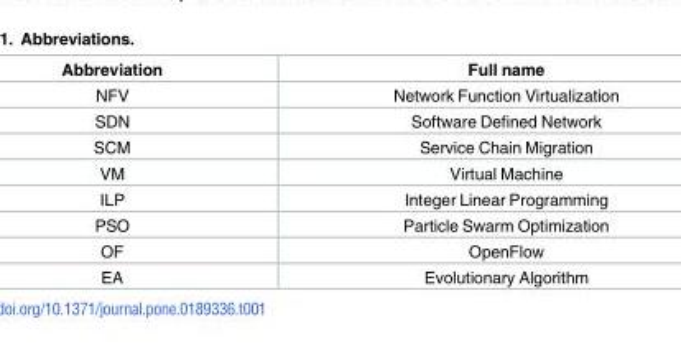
<table><thead><tr><td>Abbreviation</td><td>Full name</td></tr></thead><tbody><tr><td>NFV</td><td>Network Function Virtualization</td></tr><tr><td>SDN</td><td>Software Defined Network</td></tr><tr><td>SCM</td><td>Service Chain Migration</td></tr><tr><td>VM</td><td>Virtual Machine</td></tr><tr><td>ILP</td><td>Integer Linear Programming</td></tr><tr><td>PSO</td><td>Particle Swarm Optimization</td></tr><tr><td>OF</td><td>OpenFlow</td></tr><tr><td>EA</td><td>Evolutionary Algorithm</td></tr></tbody></table>